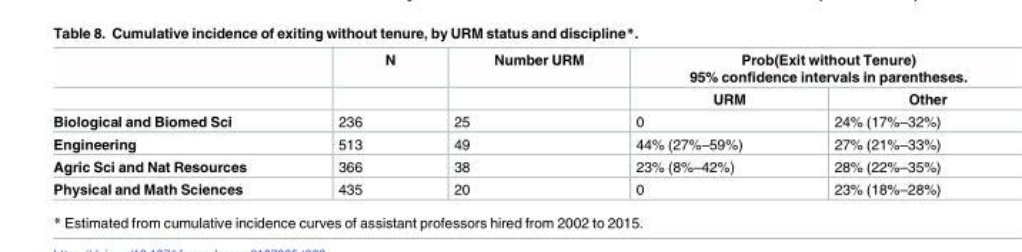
<table><thead><tr><td rowspan="2"></td><td rowspan="2">N</td><td rowspan="2">Number URM</td><td colspan="2">Prob(Exit without Tenure) 95% confidence intervals in parentheses.</td></tr><tr><td>URM</td><td>Other</td></tr></thead><tbody><tr><td>Biological and Biomed Sci</td><td>236</td><td>25</td><td>0</td><td>24% (17%–32%)</td></tr><tr><td>Engineering</td><td>513</td><td>49</td><td>44% (27%–59%)</td><td>27% (21%–33%)</td></tr><tr><td>Agric Sci and Nat Resources</td><td>366</td><td>38</td><td>23% (8%–42%)</td><td>28% (22%–35%)</td></tr><tr><td>Physical and Math Sciences</td><td>435</td><td>20</td><td>0</td><td>23% (18%–28%)</td></tr></tbody></table>